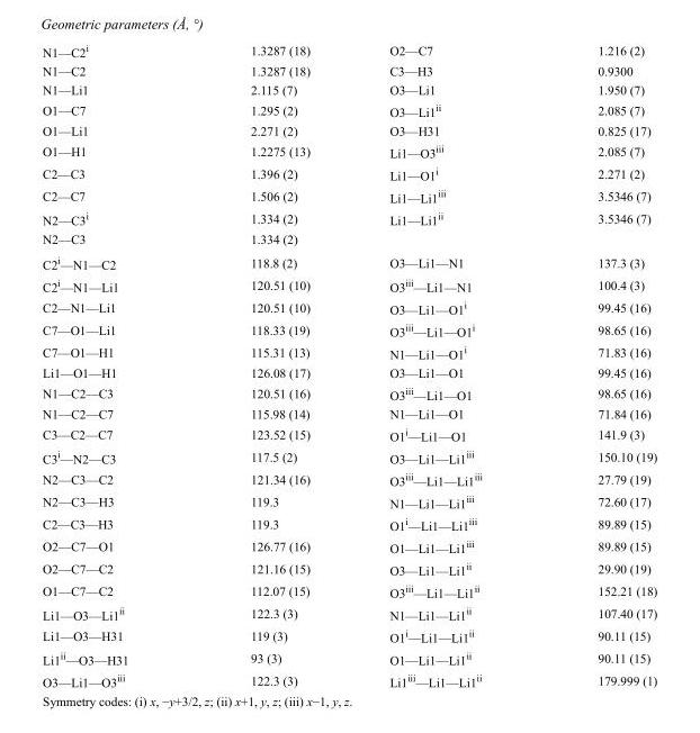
<table><tbody><tr><td>N1—C2<sup>i</sup></td><td>1.3287 (18)</td><td>O2—C7</td><td>1.216 (2)</td></tr><tr><td>N1—C2</td><td>1.3287 (18)</td><td>C3—H3</td><td>0.9300</td></tr><tr><td>N1—Li1</td><td>2.115 (7)</td><td>O3—Li1</td><td>1.950 (7)</td></tr><tr><td>O1—C7</td><td>1.295 (2)</td><td>O3—Li1<sup>ii</sup></td><td>2.085 (7)</td></tr><tr><td>O1—Li1</td><td>2.271 (2)</td><td>O3—H31</td><td>0.825 (17)</td></tr><tr><td>O1—H1</td><td>1.2275 (13)</td><td>Li1—O3<sup>iii</sup></td><td>2.085 (7)</td></tr><tr><td>C2—C3</td><td>1.396 (2)</td><td>Li1—O1<sup>i</sup></td><td>2.271 (2)</td></tr><tr><td>C2—C7</td><td>1.506 (2)</td><td>Li1—Li1<sup>iii</sup></td><td>3.5346 (7)</td></tr><tr><td>N2—C3<sup>i</sup></td><td>1.334 (2)</td><td>Li1—Li1<sup>ii</sup></td><td>3.5346 (7)</td></tr><tr><td>N2—C3</td><td>1.334 (2)</td><td></td><td></td></tr><tr><td>C2<sup>i</sup>—N1—C2</td><td>118.8 (2)</td><td>O3—Li1—N1</td><td>137.3 (3)</td></tr><tr><td>C2<sup>i</sup>—N1—Li1</td><td>120.51 (10)</td><td>O3<sup>iii</sup>—Li1—N1</td><td>100.4 (3)</td></tr><tr><td>C2—N1—Li1</td><td>120.51 (10)</td><td>O3—Li1—O1<sup>i</sup></td><td>99.45 (16)</td></tr><tr><td>C7—O1—Li1</td><td>118.33 (19)</td><td>O3<sup>iii</sup>—Li1—O1<sup>i</sup></td><td>98.65 (16)</td></tr><tr><td>C7—O1—H1</td><td>115.31 (13)</td><td>N1—Li1—O1<sup>i</sup></td><td>71.83 (16)</td></tr><tr><td>Li1—O1—H1</td><td>126.08 (17)</td><td>O3—Li1—O1</td><td>99.45 (16)</td></tr><tr><td>N1—C2—C3</td><td>120.51 (16)</td><td>O3<sup>iii</sup>—Li1—O1</td><td>98.65 (16)</td></tr><tr><td>N1—C2—C7</td><td>115.98 (14)</td><td>N1—Li1—O1</td><td>71.84 (16)</td></tr><tr><td>C3—C2—C7</td><td>123.52 (15)</td><td>O1<sup>i</sup>—Li1—O1</td><td>141.9 (3)</td></tr><tr><td>C3<sup>i</sup>—N2—C3</td><td>117.5 (2)</td><td>O3—Li1—Li1<sup>iii</sup></td><td>150.10 (19)</td></tr><tr><td>N2—C3—C2</td><td>121.34 (16)</td><td>O3<sup>iii</sup>—Li1—Li1<sup>iii</sup></td><td>27.79 (19)</td></tr><tr><td>N2—C3—H3</td><td>119.3</td><td>N1—Li1—Li1<sup>iii</sup></td><td>72.60 (17)</td></tr><tr><td>C2—C3—H3</td><td>119.3</td><td>O1<sup>i</sup>—Li1—Li1<sup>iii</sup></td><td>89.89 (15)</td></tr><tr><td>O2—C7—O1</td><td>126.77 (16)</td><td>O1—Li1—Li1<sup>iii</sup></td><td>89.89 (15)</td></tr><tr><td>O2—C7—C2</td><td>121.16 (15)</td><td>O3—Li1—Li1<sup>ii</sup></td><td>29.90 (19)</td></tr><tr><td>O1—C7—C2</td><td>112.07 (15)</td><td>O3<sup>iii</sup>—Li1—Li1<sup>ii</sup></td><td>152.21 (18)</td></tr><tr><td>Li1—O3—Li1<sup>ii</sup></td><td>122.3 (3)</td><td>N1—Li1—Li1<sup>ii</sup></td><td>107.40 (17)</td></tr><tr><td>Li1—O3—H31</td><td>119 (3)</td><td>O1<sup>i</sup>—Li1—Li1<sup>ii</sup></td><td>90.11 (15)</td></tr><tr><td>Li1<sup>ii</sup>—O3—H31</td><td>93 (3)</td><td>O1—Li1—Li1<sup>ii</sup></td><td>90.11 (15)</td></tr><tr><td>O3—Li1—O3<sup>iii</sup></td><td>122.3 (3)</td><td>Li1<sup>iii</sup>—Li1—Li1<sup>ii</sup></td><td>179.999 (1)</td></tr></tbody></table>